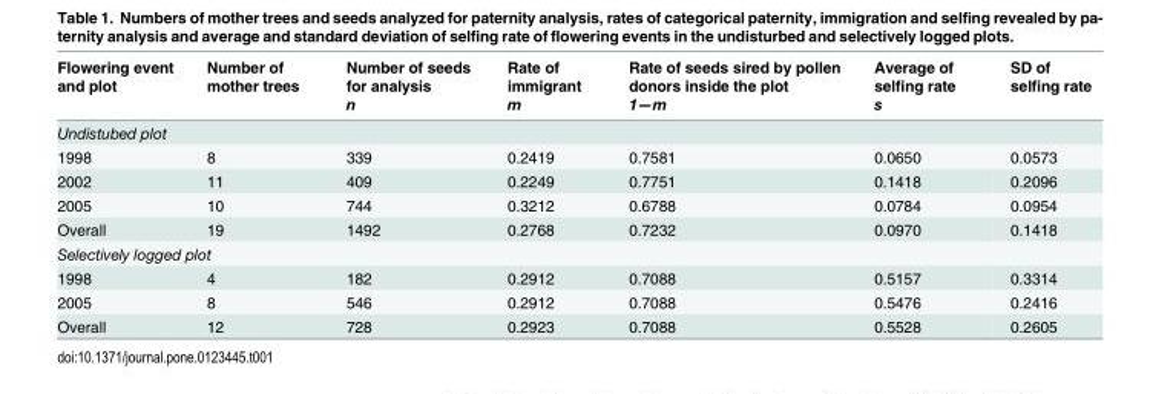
<table><thead><tr><td rowspan="2">Flowering event and plot</td><td rowspan="2">Number of mother trees</td><td rowspan="2">Number of seeds for analysis n</td><td rowspan="2">Rate of immigrant m</td><td rowspan="2">Rate of seeds sired by pollen donors inside the plot 1—m</td><td>Average of selfing rate</td><td>SD of selfing rate</td></tr><tr><td colspan="2">s</td></tr></thead><tbody><tr><td colspan="7">Undistubed plot</td></tr><tr><td>1998</td><td>8</td><td>339</td><td>0.2419</td><td>0.7581</td><td>0.0650</td><td>0.0573</td></tr><tr><td>2002</td><td>11</td><td>409</td><td>0.2249</td><td>0.7751</td><td>0.1418</td><td>0.2096</td></tr><tr><td>2005</td><td>10</td><td>744</td><td>0.3212</td><td>0.6788</td><td>0.0784</td><td>0.0954</td></tr><tr><td>Overall</td><td>19</td><td>1492</td><td>0.2768</td><td>0.7232</td><td>0.0970</td><td>0.1418</td></tr><tr><td colspan="7">Selectively logged plot</td></tr><tr><td>1998</td><td>4</td><td>182</td><td>0.2912</td><td>0.7088</td><td>0.5157</td><td>0.3314</td></tr><tr><td>2005</td><td>8</td><td>546</td><td>0.2912</td><td>0.7088</td><td>0.5476</td><td>0.2416</td></tr><tr><td>Overall</td><td>12</td><td>728</td><td>0.2923</td><td>0.7088</td><td>0.5528</td><td>0.2605</td></tr></tbody></table>